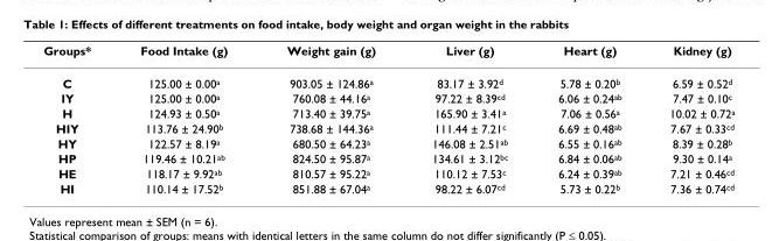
<table><thead><tr><td>Groups*</td><td>Food Intake (g)</td><td>Weight gain (g)</td><td>Liver (g)</td><td>Heart (g)</td><td>Kidney (g)</td></tr></thead><tbody><tr><td>C</td><td>125.00 ± 0.00<sup>a</sup></td><td>903.05 ± 124.86<sup>a</sup></td><td>83.17 ± 3.92<sup>d</sup></td><td>5.78 ± 0.20<sup>b</sup></td><td>6.59 ± 0.52<sup>d</sup></td></tr><tr><td>IY</td><td>125.00 ± 0.00<sup>a</sup></td><td>760.08 ± 44.16<sup>a</sup></td><td>97.22 ± 8.39<sup>cd</sup></td><td>6.06 ± 0.24<sup>ab</sup></td><td>7.47 ± 0.10<sup>c</sup></td></tr><tr><td>H</td><td>124.93 ± 0.50<sup>a</sup></td><td>713.40 ± 39.75<sup>a</sup></td><td>165.90 ± 3.41<sup>a</sup></td><td>7.06 ± 0.56<sup>a</sup></td><td>10.02 ± 0.72<sup>a</sup></td></tr><tr><td>HIY</td><td>113.76 ± 24.90<sup>b</sup></td><td>738.68 ± 144.36<sup>a</sup></td><td>111.44 ± 7.21<sup>c</sup></td><td>6.69 ± 0.48<sup>ab</sup></td><td>7.67 ± 0.33<sup>cd</sup></td></tr><tr><td>HY</td><td>122.57 ± 8.19<sup>a</sup></td><td>680.50 ± 64.23<sup>a</sup></td><td>146.08 ± 2.51<sup>ab</sup></td><td>6.55 ± 0.16<sup>ab</sup></td><td>8.39 ± 0.28<sup>b</sup></td></tr><tr><td>HP</td><td>119.46 ± 10.21<sup>ab</sup></td><td>824.50 ± 95.87<sup>a</sup></td><td>134.61 ± 3.12<sup>bc</sup></td><td>6.84 ± 0.06<sup>ab</sup></td><td>9.30 ± 0.14<sup>a</sup></td></tr><tr><td>HE</td><td>118.17 ± 9.92<sup>ab</sup></td><td>810.57 ± 95.22<sup>a</sup></td><td>110.12 ± 7.53<sup>c</sup></td><td>6.24 ± 0.39<sup>ab</sup></td><td>7.21 ± 0.46<sup>cd</sup></td></tr><tr><td>HI</td><td>110.14 ± 17.52<sup>b</sup></td><td>851.88 ± 67.04<sup>a</sup></td><td>98.22 ± 6.07<sup>cd</sup></td><td>5.73 ± 0.22<sup>b</sup></td><td>7.36 ± 0.74<sup>cd</sup></td></tr></tbody></table>